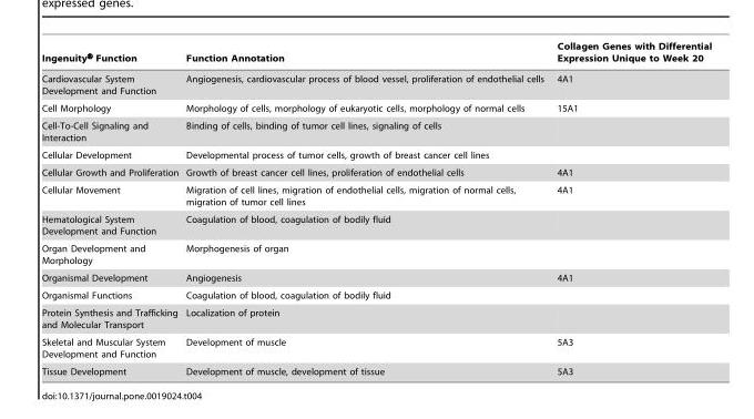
<table><thead><tr><td>Ingenuity® Function</td><td>Function Annotation</td><td>Collagen Genes with Differential Expression Unique to Week 20</td></tr></thead><tbody><tr><td>Cardiovascular System Development and Function</td><td>Angiogenesis, cardiovascular process of blood vessel, proliferation of endothelial cells</td><td>4A1</td></tr><tr><td>Cell Morphology</td><td>Morphology of cells, morphology of eukaryotic cells, morphology of normal cells</td><td>15A1</td></tr><tr><td>Cell-To-Cell Signaling and Interaction</td><td>Binding of cells, binding of tumor cell lines, signaling of cells</td><td></td></tr><tr><td>Cellular Development</td><td>Developmental process of tumor cells, growth of breast cancer cell lines</td><td></td></tr><tr><td>Cellular Growth and Proliferation</td><td>Growth of breast cancer cell lines, proliferation of endothelial cells</td><td>4A1</td></tr><tr><td>Cellular Movement</td><td>Migration of cell lines, migration of endothelial cells, migration of normal cells, migration of tumor cell lines</td><td>4A1</td></tr><tr><td>Hematological System Development and Function</td><td>Coagulation of blood, coagulation of bodily fluid</td><td></td></tr><tr><td>Organ Development and Morphology</td><td>Morphogenesis of organ</td><td></td></tr><tr><td>Organismal Development</td><td>Angiogenesis</td><td>4A1</td></tr><tr><td>Organismal Functions</td><td>Coagulation of blood, coagulation of bodily fluid</td><td></td></tr><tr><td>Protein Synthesis and Trafficking and Molecular Transport</td><td>Localization of protein</td><td></td></tr><tr><td>Skeletal and Muscular System Development and Function</td><td>Development of muscle</td><td>5A3</td></tr><tr><td>Tissue Development</td><td>Development of muscle, development of tissue</td><td>5A3</td></tr></tbody></table>